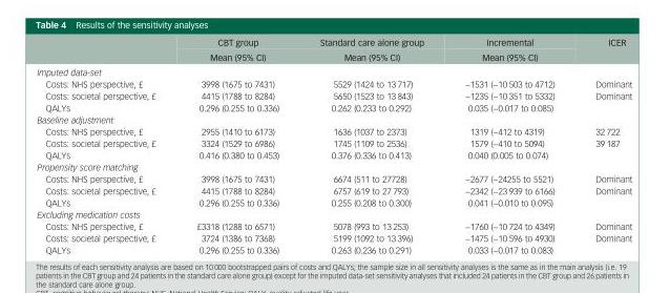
<table><thead><tr><td rowspan="2"></td><td rowspan="2">CBT group Mean (95% CI)</td><td rowspan="2">Standard care alone group Mean (95% CI)</td><td rowspan="2">Incremental Mean (95% CI)</td><td rowspan="2">ICER</td></tr><tr></tr></thead><tbody><tr><td colspan="5">Imputed data-set</td></tr><tr><td>Costs: NHS perspective, £</td><td>3998 (1675 to 7431)</td><td>5529 (1424 to 13 717)</td><td>−1531 (−10 503 to 4712)</td><td>Dominant</td></tr><tr><td>Costs: societal perspective, £</td><td>4415 (1788 to 8284)</td><td>5650 (1523 to 13 843)</td><td>−1235 (−10 351 to 5332)</td><td>Dominant</td></tr><tr><td>QALYs</td><td>0.296 (0.255 to 0.336)</td><td>0.262 (0.233 to 0.292)</td><td>0.035 (−0.017 to 0.085)</td><td></td></tr><tr><td colspan="5">Baseline adjustment</td></tr><tr><td>Costs: NHS perspective, £</td><td>2955 (1410 to 6173)</td><td>1636 (1037 to 2373)</td><td>1319 (−412 to 4319)</td><td>32 722</td></tr><tr><td>Costs: societal perspective, £</td><td>3324 (1529 to 6986)</td><td>1745 (1109 to 2536)</td><td>1579 (−410 to 5094)</td><td>39 187</td></tr><tr><td>QALYs</td><td>0.416 (0.380 to 0.453)</td><td>0.376 (0.336 to 0.413)</td><td>0.040 (0.005 to 0.074)</td><td></td></tr><tr><td colspan="5">Propensity score matching</td></tr><tr><td>Costs: NHS perspective, £</td><td>3998 (1675 to 7431)</td><td>6674 (511 to 27728)</td><td>−2677 (−24255 to 5521)</td><td>Dominant</td></tr><tr><td>Costs: societal perspective, £</td><td>4415 (1788 to 8284)</td><td>6757 (619 to 27 793)</td><td>−2342 (−23 939 to 6166)</td><td>Dominant</td></tr><tr><td>QALYs</td><td>0.296 (0.255 to 0.336)</td><td>0.255 (0.208 to 0.300)</td><td>0.041 (−0.010 to 0.095)</td><td></td></tr><tr><td colspan="5">Excluding medication costs</td></tr><tr><td>Costs: NHS perspective, £</td><td>£3318 (1288 to 6571)</td><td>5078 (993 to 13 253)</td><td>−1760 (−10 724 to 4349)</td><td>Dominant</td></tr><tr><td>Costs: societal perspective, £</td><td>3724 (1386 to 7368)</td><td>5199 (1092 to 13 396)</td><td>−1475 (−10 596 to 4930)</td><td>Dominant</td></tr><tr><td>QALYs</td><td>0.296 (0.255 to 0.336)</td><td>0.263 (0.236 to 0.291)</td><td>0.033 (−0.017 to 0.083)</td><td></td></tr></tbody></table>